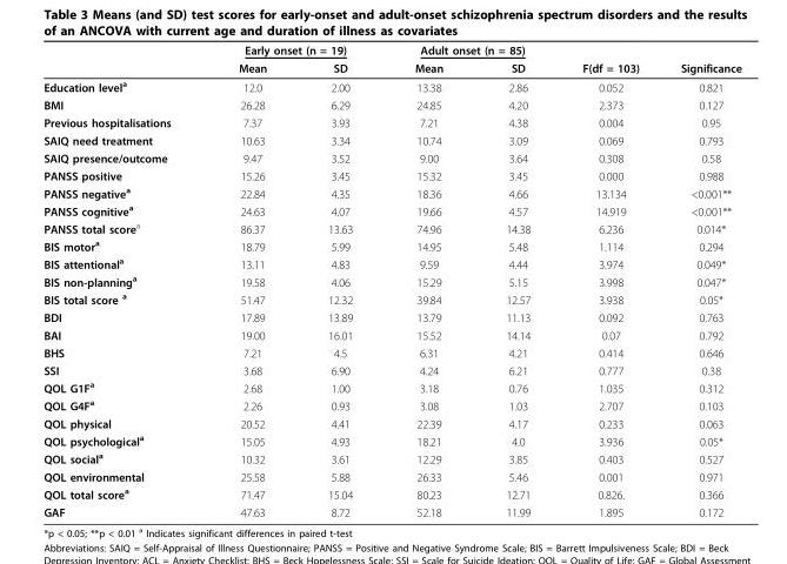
<table><thead><tr><td rowspan="2"></td><td colspan="2">Early onset (n = 19)</td><td colspan="2">Adult onset (n = 85)</td><td rowspan="2">F(df = 103)</td><td rowspan="2">Significance</td></tr><tr><td>Mean</td><td>SD</td><td>Mean</td><td>SD</td></tr></thead><tbody><tr><td>Education level<sup>a</sup></td><td>12.0</td><td>2.00</td><td>13.38</td><td>2.86</td><td>0.052</td><td>0.821</td></tr><tr><td>BMI</td><td>26.28</td><td>6.29</td><td>24.85</td><td>4.20</td><td>2.373</td><td>0.127</td></tr><tr><td>Previous hospitalisations</td><td>7.37</td><td>3.93</td><td>7.21</td><td>4.38</td><td>0.004</td><td>0.95</td></tr><tr><td>SAIQ need treatment</td><td>10.63</td><td>3.34</td><td>10.74</td><td>3.09</td><td>0.069</td><td>0.793</td></tr><tr><td>SAIQ presence/outcome</td><td>9.47</td><td>3.52</td><td>9.00</td><td>3.64</td><td>0.308</td><td>0.58</td></tr><tr><td>PANSS positive</td><td>15.26</td><td>3.45</td><td>15.32</td><td>3.45</td><td>0.000</td><td>0.988</td></tr><tr><td>PANSS negative<sup>a</sup></td><td>22.84</td><td>4.35</td><td>18.36</td><td>4.66</td><td>13.134</td><td>&lt;0.001**</td></tr><tr><td>PANSS cognitive<sup>a</sup></td><td>24.63</td><td>4.07</td><td>19.66</td><td>4.57</td><td>14.919</td><td>&lt;0.001**</td></tr><tr><td>PANSS total score<sup>a</sup></td><td>86.37</td><td>13.63</td><td>74.96</td><td>14.38</td><td>6.236</td><td>0.014*</td></tr><tr><td>BIS motor<sup>a</sup></td><td>18.79</td><td>5.99</td><td>14.95</td><td>5.48</td><td>1.114</td><td>0.294</td></tr><tr><td>BIS attentional<sup>a</sup></td><td>13.11</td><td>4.83</td><td>9.59</td><td>4.44</td><td>3.974</td><td>0.049*</td></tr><tr><td>BIS non-planning<sup>a</sup></td><td>19.58</td><td>4.06</td><td>15.29</td><td>5.15</td><td>3.998</td><td>0.047*</td></tr><tr><td>BIS total score <sup>a</sup></td><td>51.47</td><td>12.32</td><td>39.84</td><td>12.57</td><td>3.938</td><td>0.05*</td></tr><tr><td>BDI</td><td>17.89</td><td>13.89</td><td>13.79</td><td>11.13</td><td>0.092</td><td>0.763</td></tr><tr><td>BAI</td><td>19.00</td><td>16.01</td><td>15.52</td><td>14.14</td><td>0.07</td><td>0.792</td></tr><tr><td>BHS</td><td>7.21</td><td>4.5</td><td>6.31</td><td>4.21</td><td>0.414</td><td>0.646</td></tr><tr><td>SSI</td><td>3.68</td><td>6.90</td><td>4.24</td><td>6.21</td><td>0.777</td><td>0.38</td></tr><tr><td>QOL G1F<sup>a</sup></td><td>2.68</td><td>1.00</td><td>3.18</td><td>0.76</td><td>1.035</td><td>0.312</td></tr><tr><td>QOL G4F<sup>a</sup></td><td>2.26</td><td>0.93</td><td>3.08</td><td>1.03</td><td>2.707</td><td>0.103</td></tr><tr><td>QOL physical</td><td>20.52</td><td>4.41</td><td>22.39</td><td>4.17</td><td>0.233</td><td>0.063</td></tr><tr><td>QOL psychological<sup>a</sup></td><td>15.05</td><td>4.93</td><td>18.21</td><td>4.0</td><td>3.936</td><td>0.05*</td></tr><tr><td>QOL social<sup>a</sup></td><td>10.32</td><td>3.61</td><td>12.29</td><td>3.85</td><td>0.403</td><td>0.527</td></tr><tr><td>QOL environmental</td><td>25.58</td><td>5.88</td><td>26.33</td><td>5.46</td><td>0.001</td><td>0.971</td></tr><tr><td>QOL total score<sup>a</sup></td><td>71.47</td><td>15.04</td><td>80.23</td><td>12.71</td><td>0.826.</td><td>0.366</td></tr><tr><td>GAF</td><td>47.63</td><td>8.72</td><td>52.18</td><td>11.99</td><td>1.895</td><td>0.172</td></tr></tbody></table>